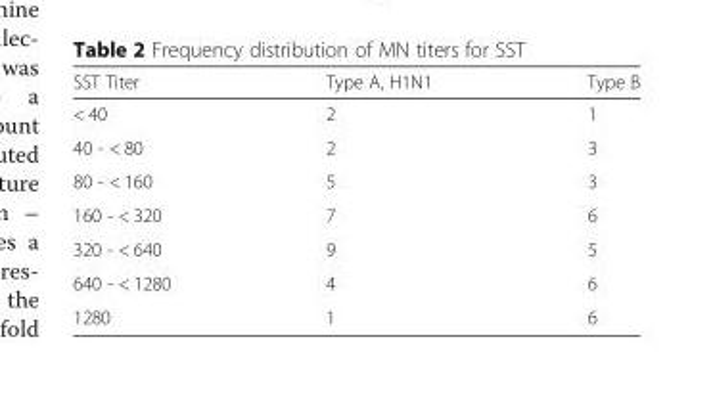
<table><thead><tr><td>SST Titer</td><td>Type A, H1N1</td><td>Type B</td></tr></thead><tbody><tr><td>&lt; 40</td><td>2</td><td>1</td></tr><tr><td>40 - &lt; 80</td><td>2</td><td>3</td></tr><tr><td>80 - &lt; 160</td><td>5</td><td>3</td></tr><tr><td>160 - &lt; 320</td><td>7</td><td>6</td></tr><tr><td>320 - &lt; 640</td><td>9</td><td>5</td></tr><tr><td>640 - &lt; 1280</td><td>4</td><td>6</td></tr><tr><td>1280</td><td>1</td><td>6</td></tr></tbody></table>